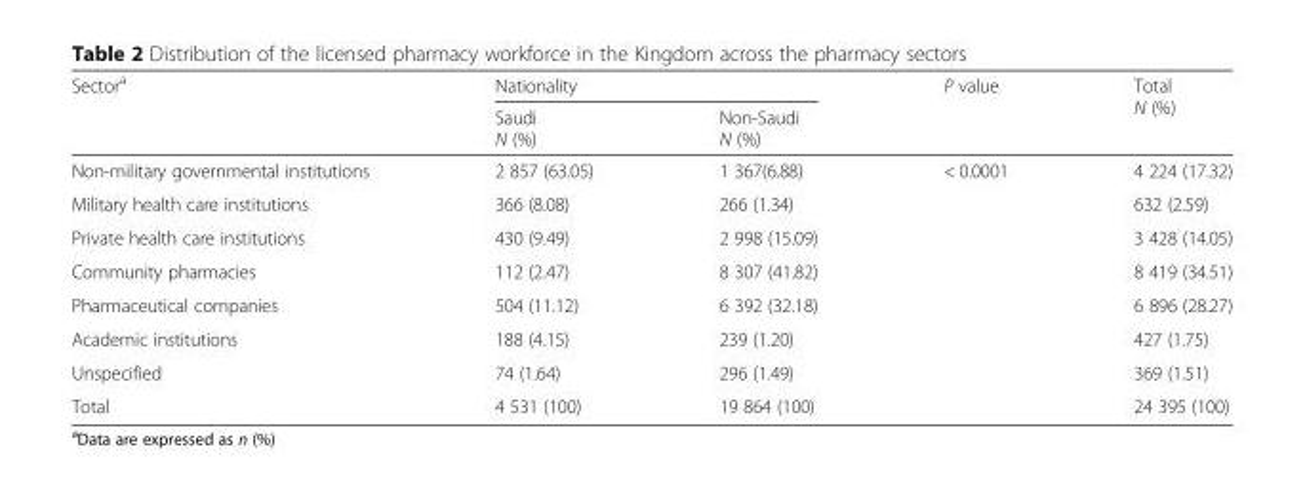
<table><thead><tr><td rowspan="2">Sector<sup>a</sup></td><td colspan="2">Nationality</td><td rowspan="2">P value</td><td rowspan="2">Total N (%)</td></tr><tr><td>Saudi N (%)</td><td>Non-Saudi N (%)</td></tr></thead><tbody><tr><td>Non-military governmental institutions</td><td>2 857 (63.05)</td><td>1 367(6.88)</td><td rowspan="7">&lt; 0.0001</td><td>4 224 (17.32)</td></tr><tr><td>Military health care institutions</td><td>366 (8.08)</td><td>266 (1.34)</td><td>632 (2.59)</td></tr><tr><td>Private health care institutions</td><td>430 (9.49)</td><td>2 998 (15.09)</td><td>3 428 (14.05)</td></tr><tr><td>Community pharmacies</td><td>112 (2.47)</td><td>8 307 (41.82)</td><td>8 419 (34.51)</td></tr><tr><td>Pharmaceutical companies</td><td>504 (11.12)</td><td>6 392 (32.18)</td><td>6 896 (28.27)</td></tr><tr><td>Academic institutions</td><td>188 (4.15)</td><td>239 (1.20)</td><td>427 (1.75)</td></tr><tr><td>Unspecified</td><td>74 (1.64)</td><td>296 (1.49)</td><td>369 (1.51)</td></tr><tr><td>Total</td><td>4 531 (100)</td><td>19 864 (100)</td><td></td><td>24 395 (100)</td></tr></tbody></table>